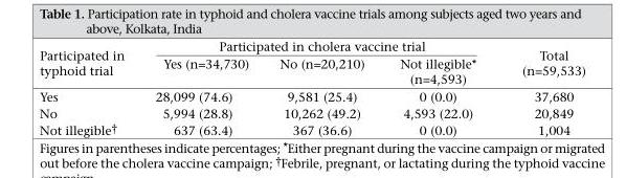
<table><thead><tr><td rowspan="2">Participated in typhoid trial</td><td colspan="3">Participated in cholera vaccine trial</td><td rowspan="2">Total (n=59,533)</td></tr><tr><td>Yes (n=34,730)</td><td>No (n=20,210)</td><td>Not illegible* (n=4,593)</td></tr></thead><tbody><tr><td>Yes</td><td>28,099 (74.6)</td><td>9,581 (25.4)</td><td>0 (0.0)</td><td>37,680</td></tr><tr><td>No</td><td>5,994 (28.8)</td><td>10,262 (49.2)</td><td>4,593 (22.0)</td><td>20,849</td></tr><tr><td>Not illegible†</td><td>637 (63.4)</td><td>367 (36.6)</td><td>0 (0.0)</td><td>1,004</td></tr></tbody></table>